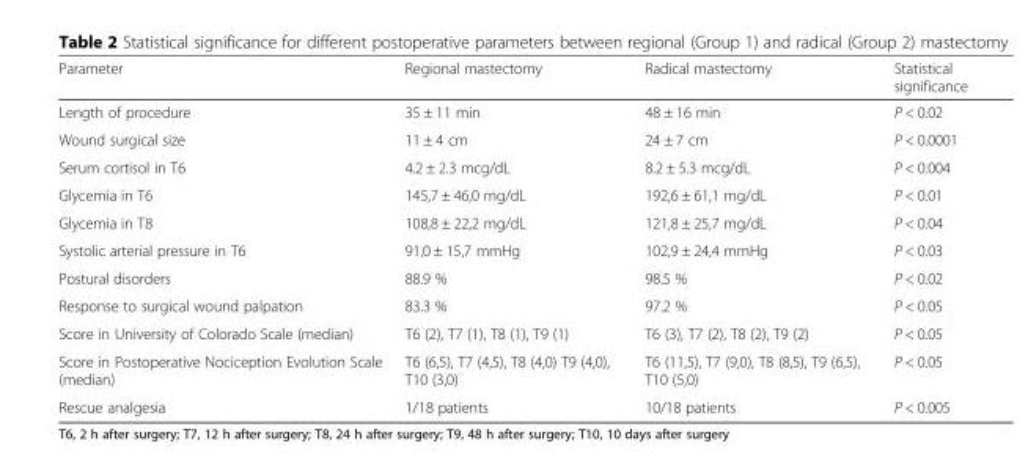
<table><thead><tr><td>Parameter</td><td>Regional mastectomy</td><td>Radical mastectomy</td><td>Statistical significance</td></tr></thead><tbody><tr><td>Length of procedure</td><td>35 ± 11 min</td><td>48 ± 16 min</td><td>P &lt; 0.02</td></tr><tr><td>Wound surgical size</td><td>11 ± 4 cm</td><td>24 ± 7 cm</td><td>P &lt; 0.0001</td></tr><tr><td>Serum cortisol in T6</td><td>4.2 ± 2.3 mcg/dL</td><td>8.2 ± 5.3 mcg/dL</td><td>P &lt; 0.004</td></tr><tr><td>Glycemia in T6</td><td>145,7 ± 46,0 mg/dL</td><td>192,6 ± 61,1 mg/dL</td><td>P &lt; 0.01</td></tr><tr><td>Glycemia in T8</td><td>108,8 ± 22,2 mg/dL</td><td>121,8 ± 25,7 mg/dL</td><td>P &lt; 0.04</td></tr><tr><td>Systolic arterial pressure in T6</td><td>91,0 ± 15,7 mmHg</td><td>102,9 ± 24,4 mmHg</td><td>P &lt; 0.03</td></tr><tr><td>Postural disorders</td><td>88.9 %</td><td>98.5 %</td><td>P &lt; 0.02</td></tr><tr><td>Response to surgical wound palpation</td><td>83.3 %</td><td>97.2 %</td><td>P &lt; 0.05</td></tr><tr><td>Score in University of Colorado Scale (median)</td><td>T6 (2), T7 (1), T8 (1), T9 (1)</td><td>T6 (3), T7 (2), T8 (2), T9 (2)</td><td>P &lt; 0.05</td></tr><tr><td>Score in Postoperative Nociception Evolution Scale (median)</td><td>T6 (6,5), T7 (4,5), T8 (4,0) T9 (4,0), T10 (3,0)</td><td>T6 (11,5), T7 (9,0), T8 (8,5), T9 (6,5), T10 (5,0)</td><td>P &lt; 0.05</td></tr><tr><td>Rescue analgesia</td><td>1/18 patients</td><td>10/18 patients</td><td>P &lt; 0.005</td></tr></tbody></table>